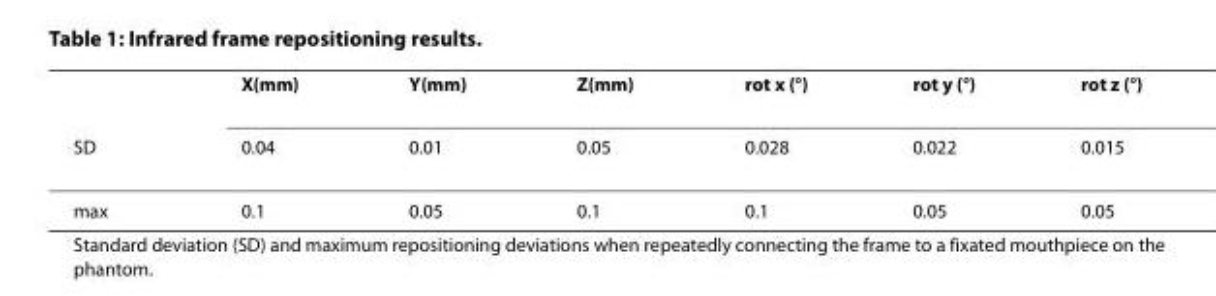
<table><thead><tr><td rowspan="2">SD</td><td rowspan="2">X(mm) 0.04</td><td rowspan="2">Y(mm) 0.01</td><td rowspan="2">Z(mm) 0.05</td><td rowspan="2">rot x (°) 0.028</td><td rowspan="2">rot y (°) 0.022</td><td rowspan="2">rot z (°) 0.015</td></tr><tr></tr></thead><tbody><tr><td>max</td><td>0.1</td><td>0.05</td><td>0.1</td><td>0.1</td><td>0.05</td><td>0.05</td></tr></tbody></table>